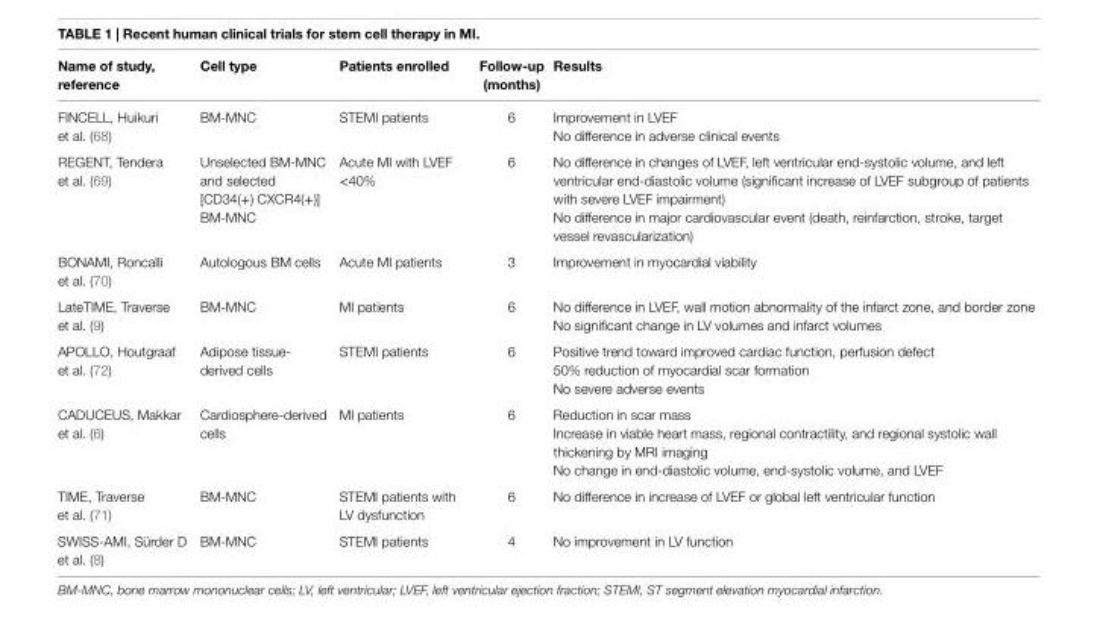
<table><thead><tr><td>Name of study, reference</td><td>Cell type</td><td>Patients enrolled</td><td>Follow-up (months)</td><td>Results</td></tr></thead><tbody><tr><td rowspan="2">FINCELL, Huikuri et al. (68)</td><td rowspan="2">BM-MNC</td><td rowspan="2">STEMI patients</td><td rowspan="2">6</td><td>Improvement in LVEF</td></tr><tr><td>No difference in adverse clinical events</td></tr><tr><td rowspan="2">REGENT, Tendera et al. (69)</td><td rowspan="2">Unselected BM-MNC and selected [CD34(+) CXCR4(+)] BM-MNC</td><td rowspan="2">Acute MI with LVEF &lt;40%</td><td rowspan="2">6</td><td>No difference in changes of LVEF, left ventricular end-systolic volume, and left ventricular end-diastolic volume (significant increase of LVEF subgroup of patients with severe LVEF impairment)</td></tr><tr><td>No difference in major cardiovascular event (death, reinfarction, stroke, target vessel revascularization)</td></tr><tr><td>BONAMI, Roncalli et al. (70)</td><td>Autologous BM cells</td><td>Acute MI patients</td><td>3</td><td>Improvement in myocardial viability</td></tr><tr><td rowspan="2">LateTIME, Traverse et al. (9)</td><td rowspan="2">BM-MNC</td><td rowspan="2">MI patients</td><td rowspan="2">6</td><td>No difference in LVEF, wall motion abnormality of the infarct zone, and border zone</td></tr><tr><td>No significant change in LV volumes and infarct volumes</td></tr><tr><td rowspan="3">APOLLO, Houtgraaf et al. (72)</td><td rowspan="3">Adipose tissue- derived cells</td><td rowspan="3">STEMI patients</td><td rowspan="3">6</td><td>Positive trend toward improved cardiac function, perfusion defect</td></tr><tr><td>50% reduction of myocardial scar formation</td></tr><tr><td>No severe adverse events</td></tr><tr><td rowspan="3">CADUCEUS, Makkar et al. (6)</td><td rowspan="3">Cardiosphere-derived cells</td><td rowspan="3">MI patients</td><td rowspan="3">6</td><td>Reduction in scar mass</td></tr><tr><td>Increase in viable heart mass, regional contractility, and regional systolic wall thickening by MRI imaging</td></tr><tr><td>No change in end-diastolic volume, end-systolic volume, and LVEF</td></tr><tr><td>TIME, Traverse et al. (71)</td><td>BM-MNC</td><td>STEMI patients with LV dysfunction</td><td>6</td><td>No difference in increase of LVEF or global left ventricular function</td></tr><tr><td>SWISS-AMI, Sürder D et al. (8)</td><td>BM-MNC</td><td>STEMI patients</td><td>4</td><td>No improvement in LV function</td></tr></tbody></table>